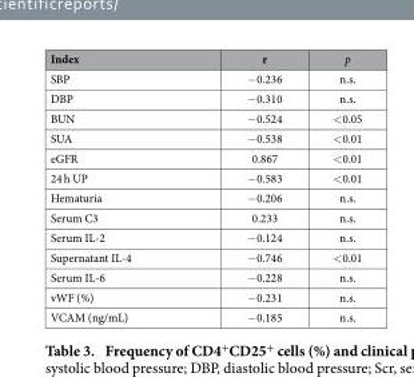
<table><thead><tr><td>Index</td><td>r</td><td>p</td></tr></thead><tbody><tr><td>SBP</td><td>− 0.236</td><td>n.s.</td></tr><tr><td>DBP</td><td>− 0.310</td><td>n.s.</td></tr><tr><td>BUN</td><td>− 0.524</td><td>&lt; 0.05</td></tr><tr><td>SUA</td><td>− 0.538</td><td>&lt; 0.01</td></tr><tr><td>eGFR</td><td>0.867</td><td>&lt; 0.01</td></tr><tr><td>24 h UP</td><td>− 0.583</td><td>&lt; 0.01</td></tr><tr><td>Hematuria</td><td>− 0.206</td><td>n.s.</td></tr><tr><td>Serum C3</td><td>0.233</td><td>n.s.</td></tr><tr><td>Serum IL-2</td><td>− 0.124</td><td>n.s.</td></tr><tr><td>Supernatant IL-4</td><td>− 0.746</td><td>&lt; 0.01</td></tr><tr><td>Serum IL-6</td><td>− 0.228</td><td>n.s.</td></tr><tr><td>vWF (%)</td><td>− 0.231</td><td>n.s.</td></tr><tr><td>VCAM (ng/mL)</td><td>− 0.185</td><td>n.s.</td></tr></tbody></table>